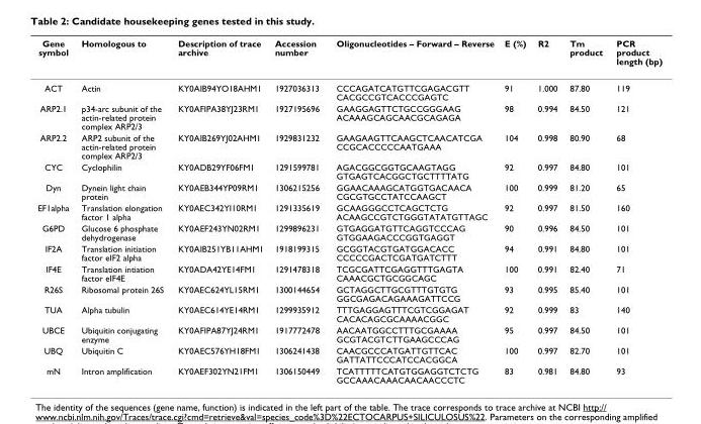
<table><thead><tr><td>Gene symbol</td><td>Homologous to</td><td>Description of trace archive</td><td>Accession number</td><td>Oligonucleotides – Forward – Reverse</td><td>E (%)</td><td>R2</td><td>Tm product</td><td>PCR product length (bp)</td></tr></thead><tbody><tr><td>ACT</td><td>Actin</td><td>KY0AIB94YO18AHM1</td><td>1927036313</td><td>CCCAGATCATGTTCGAGACGTT CACGCCGTCACCCGAGTC</td><td>91</td><td>1.000</td><td>87.80</td><td>119</td></tr><tr><td>ARP2.1</td><td>p34-arc subunit of the actin-related protein complex ARP2/3</td><td>KY0AFIPA38YJ23RM1</td><td>1927195696</td><td>GAAGGAGTTCTGCCGGGAAG ACAAAGCAGCAACGCAGAGA</td><td>98</td><td>0.994</td><td>84.50</td><td>121</td></tr><tr><td>ARP2.2</td><td>ARP2 subunit of the actin-related protein complex ARP2/3</td><td>KY0AIB269YJ02AHM1</td><td>1929831232</td><td>GAAGAAGTTCAAGCTCAACATCGA CCGCACCCCCAATGAAA</td><td>104</td><td>0.998</td><td>80.90</td><td>68</td></tr><tr><td>CYC</td><td>Cyclophilin</td><td>KY0ADB29YF06FM1</td><td>1291599781</td><td>AGACGGCGGTGCAAGTAGG GTGAGTCACGGCTGCTTTTATG</td><td>92</td><td>0.997</td><td>84.80</td><td>101</td></tr><tr><td>Dyn</td><td>Dynein light chain protein</td><td>KY0AEB344YP09RM1</td><td>1306215256</td><td>GGAACAAAGCATGGTGACAACA CGCGTGCCTATCCAAGCT</td><td>100</td><td>0.999</td><td>81.20</td><td>65</td></tr><tr><td>EF1alpha</td><td>Translation elongation factor 1 alpha</td><td>KY0AEC342YI10RM1</td><td>1291335619</td><td>GCAAGGGCCTCAGCTCTG ACAAGCCGTCTGGGTATATGTTAGC</td><td>92</td><td>0.997</td><td>81.50</td><td>160</td></tr><tr><td>G6PD</td><td>Glucose 6 phosphate dehydrogenase</td><td>KY0AEF243YN02RM1</td><td>1299896231</td><td>GTGAGGATGTTCAGGTCCCAG GTGGAAGACCCGGTGAGGT</td><td>90</td><td>0.996</td><td>84.50</td><td>101</td></tr><tr><td>IF2A</td><td>Translation initiation factor eIF2 alpha</td><td>KY0AIB251YB11AHM1</td><td>1918199315</td><td>GCGGTACGTGATGGACACC CCCCCGACTCGATGATCTTT</td><td>94</td><td>0.991</td><td>84.80</td><td>101</td></tr><tr><td>IF4E</td><td>Translation intiation factor eIF4E</td><td>KY0ADA42YE14FM1</td><td>1291478318</td><td>TCGCGATTCGAGGTTTGAGTA CAAACGCTGCGGCAGC</td><td>100</td><td>0.991</td><td>82.40</td><td>71</td></tr><tr><td>R26S</td><td>Ribosomal protein 26S</td><td>KY0AEC624YL15RM1</td><td>1300144654</td><td>GCTAGGCTTGCGTTTGTGTG GGCGAGACAGAAAGATTCCG</td><td>93</td><td>0.995</td><td>85.40</td><td>101</td></tr><tr><td>TUA</td><td>Alpha tubulin</td><td>KY0AEC614YE14RM1</td><td>1299935912</td><td>TTTGAGGAGTTTCGTCGGAGAT CACACAGCGCAAAACGGC</td><td>92</td><td>0.999</td><td>83</td><td>140</td></tr><tr><td>UBCE</td><td>Ubiquitin conjugating enzyme</td><td>KY0AFIPA87YJ24RM1</td><td>1917772478</td><td>AACAATGGCCTTTGCGAAAA GCGTACGTCTTGAAGCCCAG</td><td>95</td><td>0.997</td><td>84.50</td><td>101</td></tr><tr><td>UBQ</td><td>Ubiquitin C</td><td>KY0AEC576YH18FM1</td><td>1306241438</td><td>CAACGCCCATGATTGTTCAC GATTATTCCCATCCACGGCA</td><td>100</td><td>0.997</td><td>82.70</td><td>101</td></tr><tr><td>mN</td><td>Intron amplification</td><td>KY0AEF302YN21FM1</td><td>1306150449</td><td>TCATTTTTCATGTGGAGGTCTCTG GCCAAACAAACAACAACCCTC</td><td>83</td><td>0.981</td><td>84.80</td><td>93</td></tr></tbody></table>